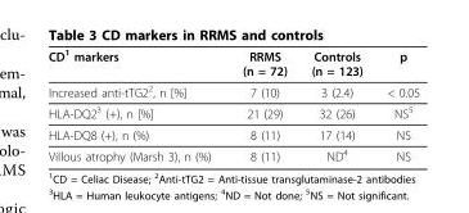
<table><thead><tr><td>CD<sup>1</sup> markers</td><td>RRMS (n = 72)</td><td>Controls (n = 123)</td><td>p</td></tr></thead><tbody><tr><td>Increased anti-tTG2<sup>2</sup>, n [%]</td><td>7 (10)</td><td>3 (2.4)</td><td>&lt; 0.05</td></tr><tr><td>HLA-DQ2<sup>3</sup> (+), n [%]</td><td>21 (29)</td><td>32 (26)</td><td>NS<sup>5</sup></td></tr><tr><td>HLA-DQ8 (+), n (%)</td><td>8 (11)</td><td>17 (14)</td><td>NS</td></tr><tr><td>Villous atrophy (Marsh 3), n (%)</td><td>8 (11)</td><td>ND<sup>4</sup></td><td>NS</td></tr></tbody></table>